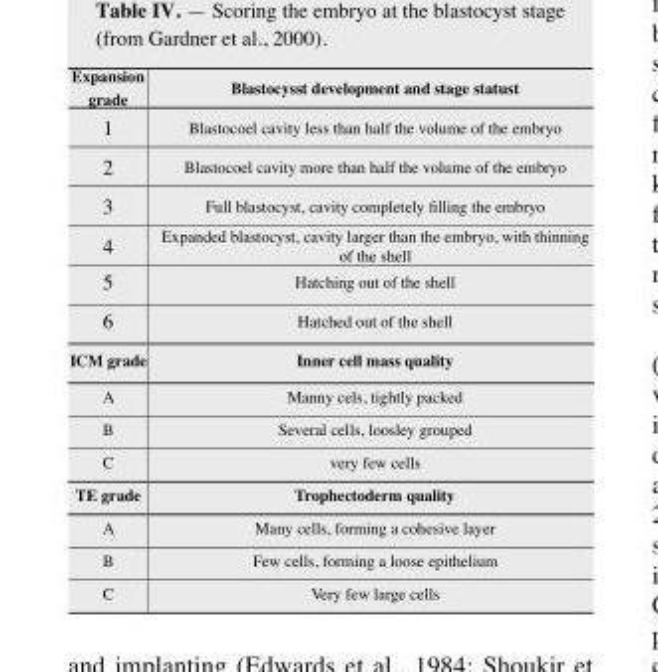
<table><thead><tr><td>Expansion grade</td><td>Blastocysst development and stage statust</td></tr></thead><tbody><tr><td>1</td><td>Blastocoel cavity less than half the volume of the embryo</td></tr><tr><td>2</td><td>Blastocoel cavity more than half the volume of the embryo</td></tr><tr><td>3</td><td>Full blastocyst, cavity completely filling the embryo</td></tr><tr><td>4</td><td>Expanded blastocyst, cavity larger than the embryo, with thinning of the shell</td></tr><tr><td>5</td><td>Hatching out of the shell</td></tr><tr><td>6</td><td>Hatched out of the shell</td></tr><tr><td>ICM grade</td><td>Inner cell mass quality</td></tr><tr><td>A</td><td>Manny cels, tightly packed</td></tr><tr><td>B</td><td>Several cells, loosley grouped</td></tr><tr><td>C</td><td>very few cells</td></tr><tr><td>TE grade</td><td>Trophectoderm quality</td></tr><tr><td>A</td><td>Many cells, forming a cohesive layer</td></tr><tr><td>B</td><td>Few cells, forming a loose epithelium</td></tr><tr><td>C</td><td>Very few large cells</td></tr></tbody></table>